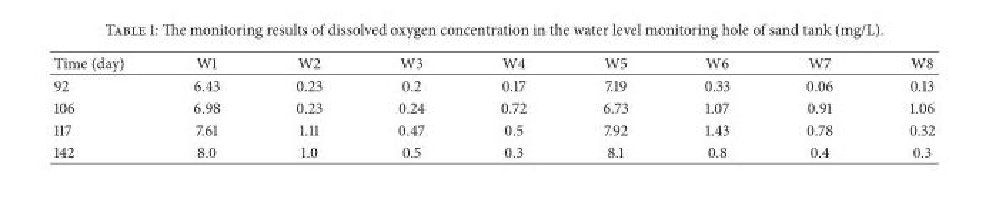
<table><thead><tr><td>Time (day)</td><td>W1</td><td>W2</td><td>W3</td><td>W4</td><td>W5</td><td>W6</td><td>W7</td><td>W8</td></tr></thead><tbody><tr><td>92</td><td>6.43</td><td>0.23</td><td>0.2</td><td>0.17</td><td>7.19</td><td>0.33</td><td>0.06</td><td>0.13</td></tr><tr><td>106</td><td>6.98</td><td>0.23</td><td>0.24</td><td>0.72</td><td>6.73</td><td>1.07</td><td>0.91</td><td>1.06</td></tr><tr><td>117</td><td>7.61</td><td>1.11</td><td>0.47</td><td>0.5</td><td>7.92</td><td>1.43</td><td>0.78</td><td>0.32</td></tr><tr><td>142</td><td>8.0</td><td>1.0</td><td>0.5</td><td>0.3</td><td>8.1</td><td>0.8</td><td>0.4</td><td>0.3</td></tr></tbody></table>